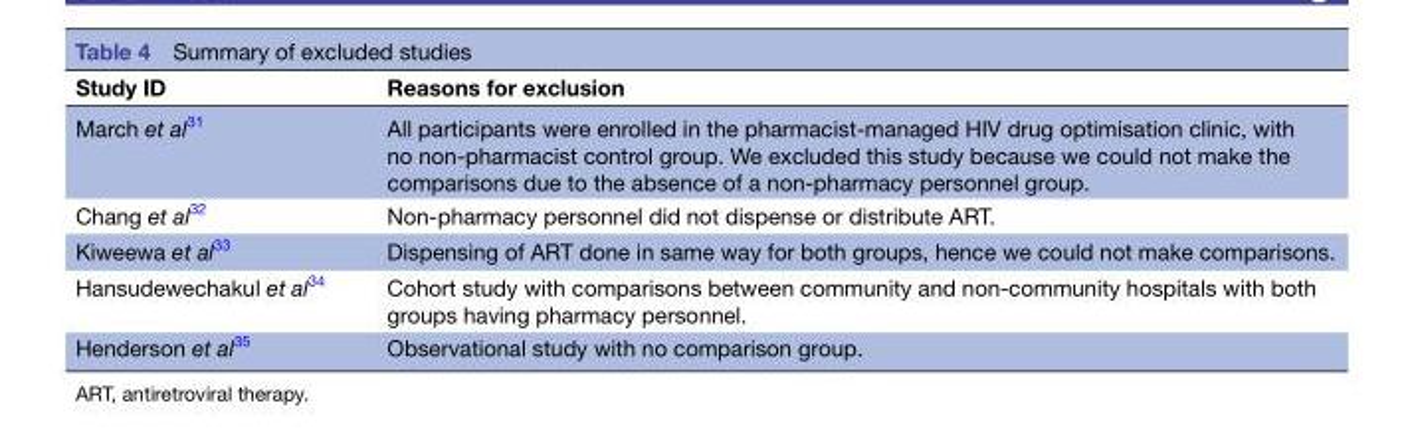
<table><thead><tr><td>Study ID</td><td>Reasons for exclusion</td></tr></thead><tbody><tr><td>March et al<sup>31</sup></td><td>All participants were enrolled in the pharmacist-managed HIV drug optimisation clinic, with no non-pharmacist control group. We excluded this study because we could not make the comparisons due to the absence of a non-pharmacy personnel group.</td></tr><tr><td>Chang et al<sup>32</sup></td><td>Non-pharmacy personnel did not dispense or distribute ART.</td></tr><tr><td>Kiweewa et al<sup>33</sup></td><td>Dispensing of ART done in same way for both groups, hence we could not make comparisons.</td></tr><tr><td>Hansudewechakul et al<sup>34</sup></td><td>Cohort study with comparisons between community and non-community hospitals with both groups having pharmacy personnel.</td></tr><tr><td>Henderson et al<sup>35</sup></td><td>Observational study with no comparison group.</td></tr></tbody></table>